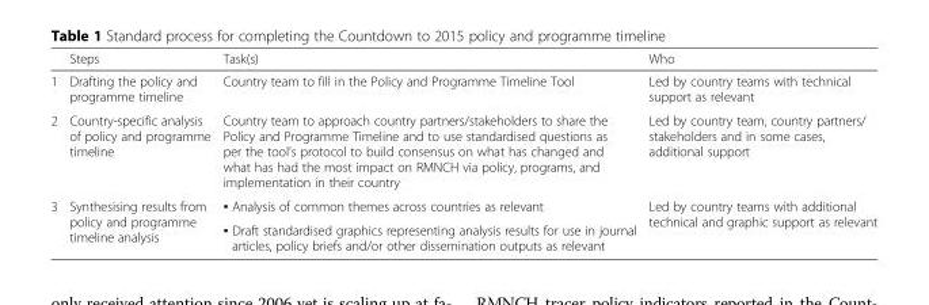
<table><thead><tr><td></td><td>Steps</td><td>Task(s)</td><td>Who</td></tr></thead><tbody><tr><td>1</td><td>Drafting the policy and programme timeline</td><td>Country team to fill in the Policy and Programme Timeline Tool</td><td>Led by country teams with technical support as relevant</td></tr><tr><td>2</td><td>Country-specific analysis of policy and programme timeline</td><td>Country team to approach country partners/stakeholders to share the Policy and Programme Timeline and to use standardised questions as per the tool’s protocol to build consensus on what has changed and what has had the most impact on RMNCH via policy, programs, and implementation in their country</td><td>Led by country team, country partners/ stakeholders and in some cases, additional support</td></tr><tr><td rowspan="2">3</td><td rowspan="2">Synthesising results from policy and programme timeline analysis</td><td>▪ Analysis of common themes across countries as relevant</td><td rowspan="2">Led by country teams with additional technical and graphic support as relevant</td></tr><tr><td>▪ Draft standardised graphics representing analysis results for use in journal articles, policy briefs and/or other dissemination outputs as relevant</td></tr></tbody></table>